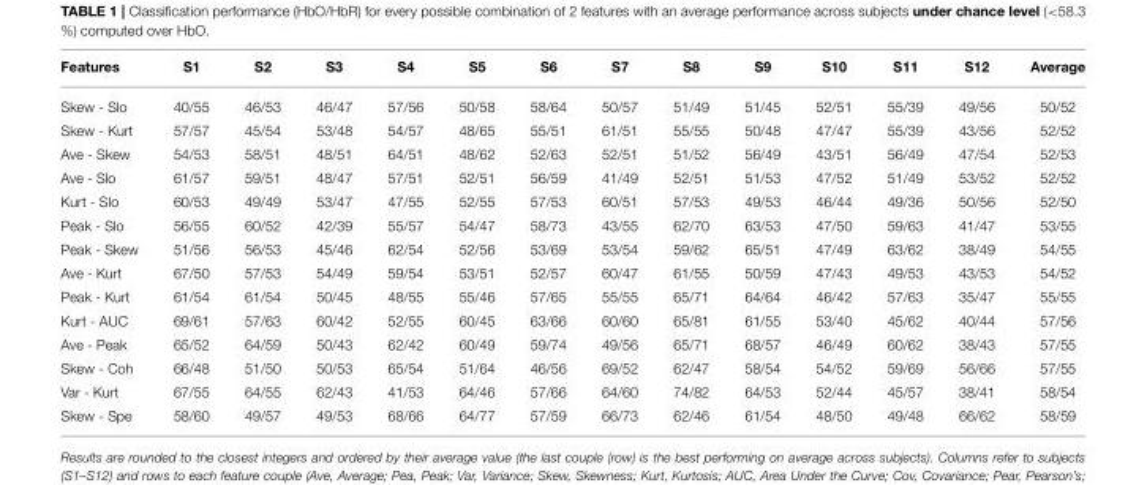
<table><thead><tr><td>Features</td><td>S1</td><td>S2</td><td>S3</td><td>S4</td><td>S5</td><td>S6</td><td>S7</td><td>S8</td><td>S9</td><td>S10</td><td>S11</td><td>S12</td><td>Average</td></tr></thead><tbody><tr><td>Skew - Slo</td><td>40/55</td><td>46/53</td><td>46/47</td><td>57/56</td><td>50/58</td><td>58/64</td><td>50/57</td><td>51/49</td><td>51/45</td><td>52/51</td><td>55/39</td><td>49/56</td><td>50/52</td></tr><tr><td>Skew - Kurt</td><td>57/57</td><td>45/54</td><td>53/48</td><td>54/57</td><td>48/65</td><td>55/51</td><td>61/51</td><td>55/55</td><td>50/48</td><td>47/47</td><td>55/39</td><td>43/56</td><td>52/52</td></tr><tr><td>Ave - Skew</td><td>54/53</td><td>58/51</td><td>48/51</td><td>64/51</td><td>48/62</td><td>52/63</td><td>52/51</td><td>51/52</td><td>56/49</td><td>43/51</td><td>56/49</td><td>47/54</td><td>52/53</td></tr><tr><td>Ave - Slo</td><td>61/57</td><td>59/51</td><td>48/47</td><td>57/51</td><td>52/51</td><td>56/59</td><td>41/49</td><td>52/51</td><td>51/53</td><td>47/52</td><td>51/49</td><td>53/52</td><td>52/52</td></tr><tr><td>Kurt - Slo</td><td>60/53</td><td>49/49</td><td>53/47</td><td>47/55</td><td>52/55</td><td>57/53</td><td>60/51</td><td>57/53</td><td>49/53</td><td>46/44</td><td>49/36</td><td>50/56</td><td>52/50</td></tr><tr><td>Peak - Slo</td><td>56/55</td><td>60/52</td><td>42/39</td><td>55/57</td><td>54/47</td><td>58/73</td><td>43/55</td><td>62/70</td><td>63/53</td><td>47/50</td><td>59/63</td><td>41/47</td><td>53/55</td></tr><tr><td>Peak - Skew</td><td>51/56</td><td>56/53</td><td>45/46</td><td>62/54</td><td>52/56</td><td>53/69</td><td>53/54</td><td>59/62</td><td>65/51</td><td>47/49</td><td>63/62</td><td>38/49</td><td>54/55</td></tr><tr><td>Ave - Kurt</td><td>67/50</td><td>57/53</td><td>54/49</td><td>59/54</td><td>53/51</td><td>52/57</td><td>60/47</td><td>61/55</td><td>50/59</td><td>47/43</td><td>49/53</td><td>43/53</td><td>54/52</td></tr><tr><td>Peak - Kurt</td><td>61/54</td><td>61/54</td><td>50/45</td><td>48/55</td><td>55/46</td><td>57/65</td><td>55/55</td><td>65/71</td><td>64/64</td><td>46/42</td><td>57/63</td><td>35/47</td><td>55/55</td></tr><tr><td>Kurt - AUC</td><td>69/61</td><td>57/63</td><td>60/42</td><td>52/55</td><td>60/45</td><td>63/66</td><td>60/60</td><td>65/81</td><td>61/55</td><td>53/40</td><td>45/62</td><td>40/44</td><td>57/56</td></tr><tr><td>Ave - Peak</td><td>65/52</td><td>64/59</td><td>50/43</td><td>62/42</td><td>60/49</td><td>59/74</td><td>49/56</td><td>65/71</td><td>68/57</td><td>46/49</td><td>60/62</td><td>38/43</td><td>57/55</td></tr><tr><td>Skew - Coh</td><td>66/48</td><td>51/50</td><td>50/53</td><td>65/54</td><td>51/64</td><td>46/56</td><td>69/52</td><td>62/47</td><td>58/54</td><td>54/52</td><td>59/69</td><td>56/66</td><td>57/55</td></tr><tr><td>Var - Kurt</td><td>67/55</td><td>64/55</td><td>62/43</td><td>41/53</td><td>64/46</td><td>57/66</td><td>64/60</td><td>74/82</td><td>64/53</td><td>52/44</td><td>45/57</td><td>38/41</td><td>58/54</td></tr><tr><td>Skew - Spe</td><td>58/60</td><td>49/57</td><td>49/53</td><td>68/66</td><td>64/77</td><td>57/59</td><td>66/73</td><td>62/46</td><td>61/54</td><td>48/50</td><td>49/48</td><td>66/62</td><td>58/59</td></tr></tbody></table>